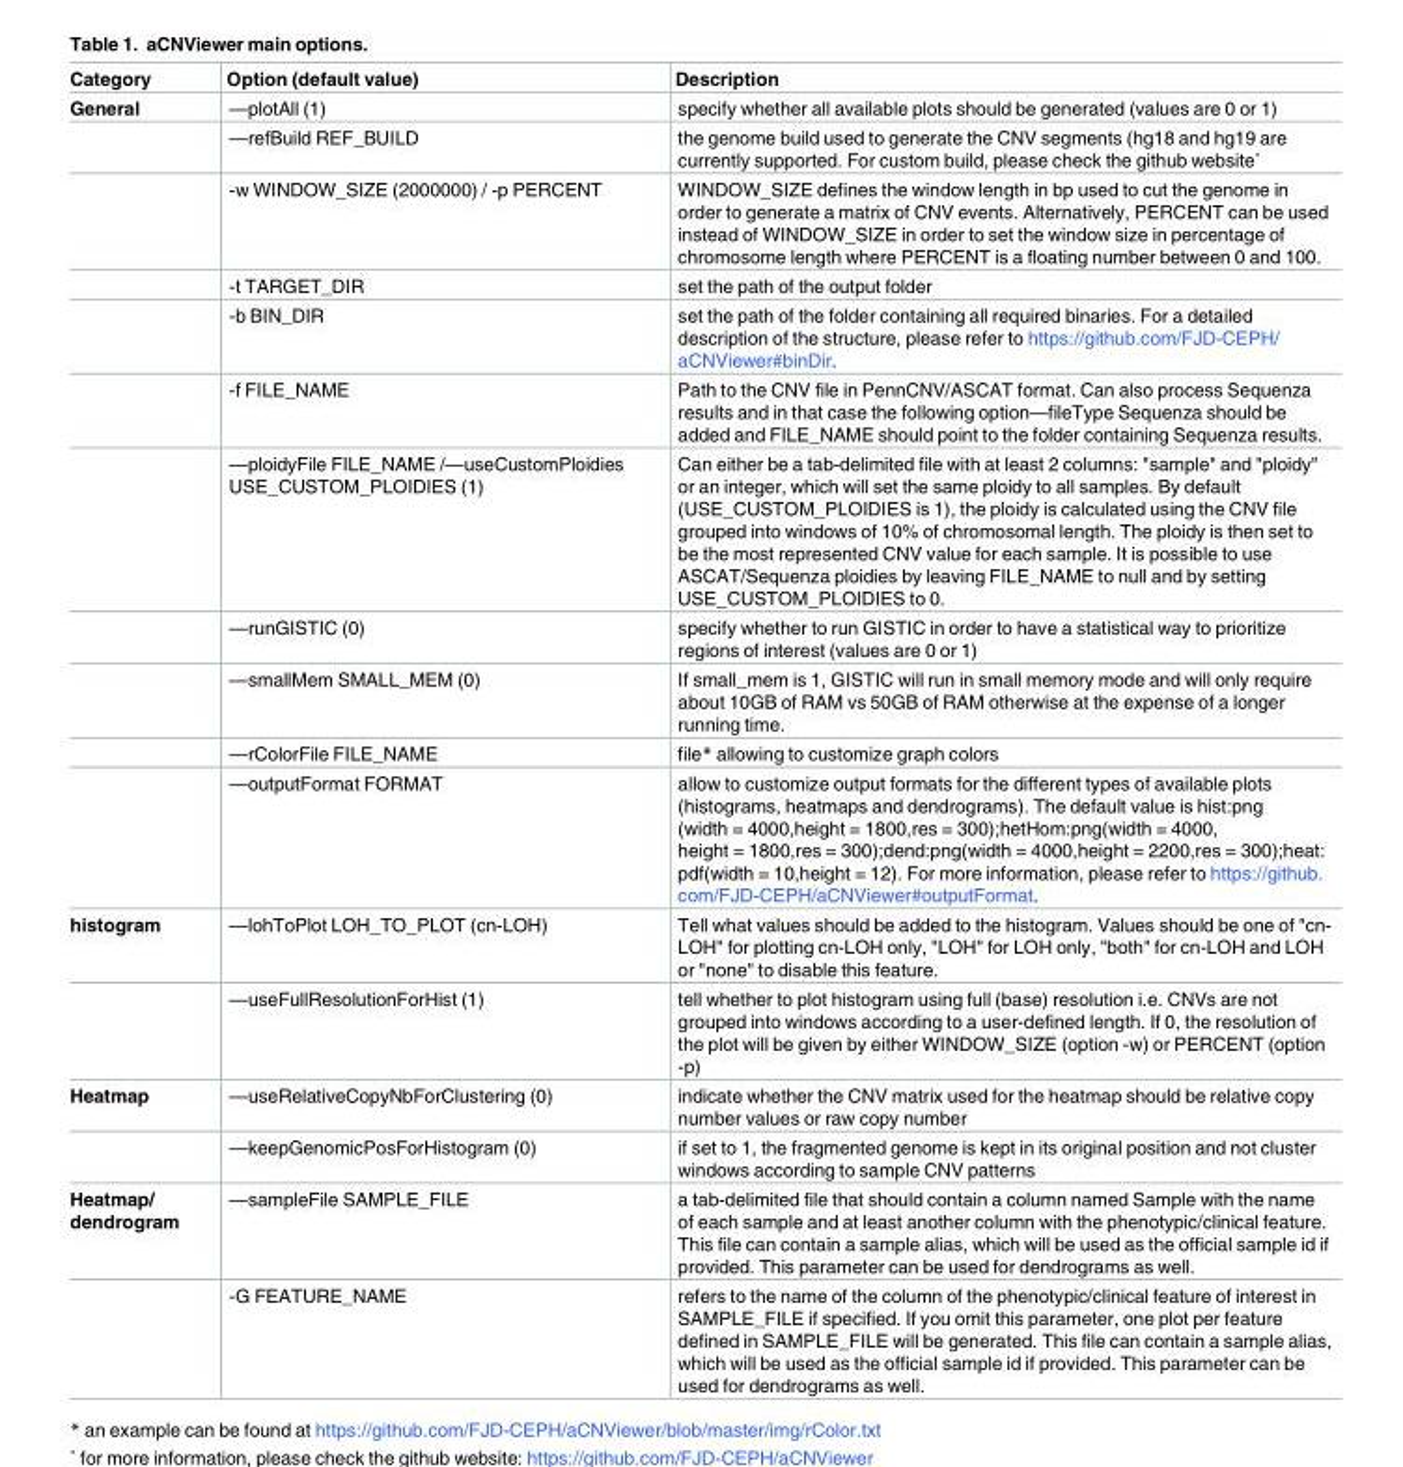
<table><thead><tr><td>Category</td><td>Option (default value)</td><td>Description</td></tr></thead><tbody><tr><td rowspan="11">General</td><td>—plotAll (1)</td><td>specify whether all available plots should be generated (values are 0 or 1)</td></tr><tr><td>—refBuild REF_BUILD</td><td>the genome build used to generate the CNV segments (hg18 and hg19 are currently supported. For custom build, please check the github website˚</td></tr><tr><td>-w WINDOW_SIZE (2000000) / -p PERCENT</td><td>WINDOW_SIZE defines the window length in bp used to cut the genome in order to generate a matrix of CNV events. Alternatively, PERCENT can be used instead of WINDOW_SIZE in order to set the window size in percentage of chromosome length where PERCENT is a floating number between 0 and 100.</td></tr><tr><td>-t TARGET_DIR</td><td>set the path of the output folder</td></tr><tr><td>-b BIN_DIR</td><td>set the path of the folder containing all required binaries. For a detailed description of the structure, please refer to https://github.com/FJD-CEPH/ aCNViewer#binDir.</td></tr><tr><td>-f FILE_NAME</td><td>Path to the CNV file in PennCNV/ASCAT format. Can also process Sequenza results and in that case the following option—fileType Sequenza should be added and FILE_NAME should point to the folder containing Sequenza results.</td></tr><tr><td>—ploidyFile FILE_NAME /—useCustomPloidies USE_CUSTOM_PLOIDIES (1)</td><td>Can either be a tab-delimited file with at least 2 columns: &quot;sample&quot; and &quot;ploidy&quot; or an integer, which will set the same ploidy to all samples. By default (USE_CUSTOM_PLOIDIES is 1), the ploidy is calculated using the CNV file grouped into windows of 10% of chromosomal length. The ploidy is then set to be the most represented CNV value for each sample. It is possible to use ASCAT/Sequenza ploidies by leaving FILE_NAME to null and by setting USE_CUSTOM_PLOIDIES to 0.</td></tr><tr><td>—runGISTIC (0)</td><td>specify whether to run GISTIC in order to have a statistical way to prioritize regions of interest (values are 0 or 1)</td></tr><tr><td>—smallMem SMALL_MEM (0)</td><td>If small_mem is 1, GISTIC will run in small memory mode and will only require about 10GB of RAM vs 50GB of RAM otherwise at the expense of a longer running time.</td></tr><tr><td>—rColorFile FILE_NAME</td><td>file* allowing to customize graph colors</td></tr><tr><td>—outputFormat FORMAT</td><td>allow to customize output formats for the different types of available plots (histograms, heatmaps and dendrograms). The default value is hist:png (width = 4000,height = 1800,res = 300);hetHom:png(width = 4000, height = 1800,res = 300);dend:png(width = 4000,height = 2200,res = 300);heat: pdf(width = 10,height = 12). For more information, please refer to https://github. com/FJD-CEPH/aCNViewer#outputFormat.</td></tr><tr><td rowspan="2">histogram</td><td>—lohToPlot LOH_TO_PLOT (cn-LOH)</td><td>Tell what values should be added to the histogram. Values should be one of &quot;cn- LOH&quot; for plotting cn-LOH only, &quot;LOH&quot; for LOH only, &quot;both&quot; for cn-LOH and LOH or &quot;none&quot; to disable this feature.</td></tr><tr><td>—useFullResolutionForHist (1)</td><td>tell whether to plot histogram using full (base) resolution i.e. CNVs are not grouped into windows according to a user-defined length. If 0, the resolution of the plot will be given by either WINDOW_SIZE (option -w) or PERCENT (option -p)</td></tr><tr><td rowspan="2">Heatmap</td><td>—useRelativeCopyNbForClustering (0)</td><td>indicate whether the CNV matrix used for the heatmap should be relative copy number values or raw copy number</td></tr><tr><td>—keepGenomicPosForHistogram (0)</td><td>if set to 1, the fragmented genome is kept in its original position and not cluster windows according to sample CNV patterns</td></tr><tr><td rowspan="2">Heatmap/ dendrogram</td><td>—sampleFile SAMPLE_FILE</td><td>a tab-delimited file that should contain a column named Sample with the name of each sample and at least another column with the phenotypic/clinical feature. This file can contain a sample alias, which will be used as the official sample id if provided. This parameter can be used for dendrograms as well.</td></tr><tr><td>-G FEATURE_NAME</td><td>refers to the name of the column of the phenotypic/clinical feature of interest in SAMPLE_FILE if specified. If you omit this parameter, one plot per feature defined in SAMPLE_FILE will be generated. This file can contain a sample alias, which will be used as the official sample id if provided. This parameter can be used for dendrograms as well.</td></tr></tbody></table>